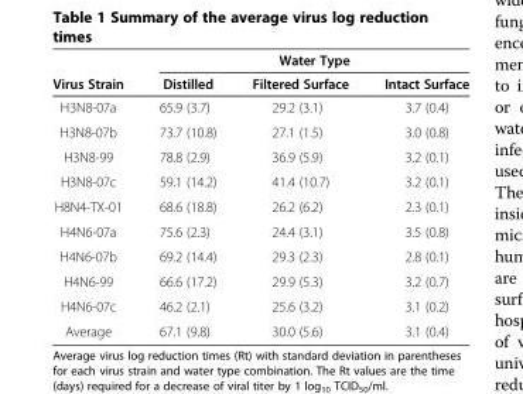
<table><thead><tr><td rowspan="2">Virus Strain</td><td colspan="3">Water Type</td></tr><tr><td>Distilled</td><td>Filtered Surface</td><td>Intact Surface</td></tr></thead><tbody><tr><td>H3N8-07a</td><td>65.9 (3.7)</td><td>29.2 (3.1)</td><td>3.7 (0.4)</td></tr><tr><td>H3N8-07b</td><td>73.7 (10.8)</td><td>27.1 (1.5)</td><td>3.0 (0.8)</td></tr><tr><td>H3N8-99</td><td>78.8 (2.9)</td><td>36.9 (5.9)</td><td>3.2 (0.1)</td></tr><tr><td>H3N8-07c</td><td>59.1 (14.2)</td><td>41.4 (10.7)</td><td>3.2 (0.1)</td></tr><tr><td>H8N4-TX-01</td><td>68.6 (18.8)</td><td>26.2 (6.2)</td><td>2.3 (0.1)</td></tr><tr><td>H4N6-07a</td><td>75.6 (2.3)</td><td>24.4 (3.1)</td><td>3.5 (0.8)</td></tr><tr><td>H4N6-07b</td><td>69.2 (14.4)</td><td>29.3 (2.3)</td><td>2.8 (0.1)</td></tr><tr><td>H4N6-99</td><td>66.6 (17.2)</td><td>29.9 (5.3)</td><td>3.2 (0.7)</td></tr><tr><td>H4N6-07c</td><td>46.2 (2.1)</td><td>25.6 (3.2)</td><td>3.1 (0.2)</td></tr><tr><td>Average</td><td>67.1 (9.8)</td><td>30.0 (5.6)</td><td>3.1 (0.4)</td></tr></tbody></table>